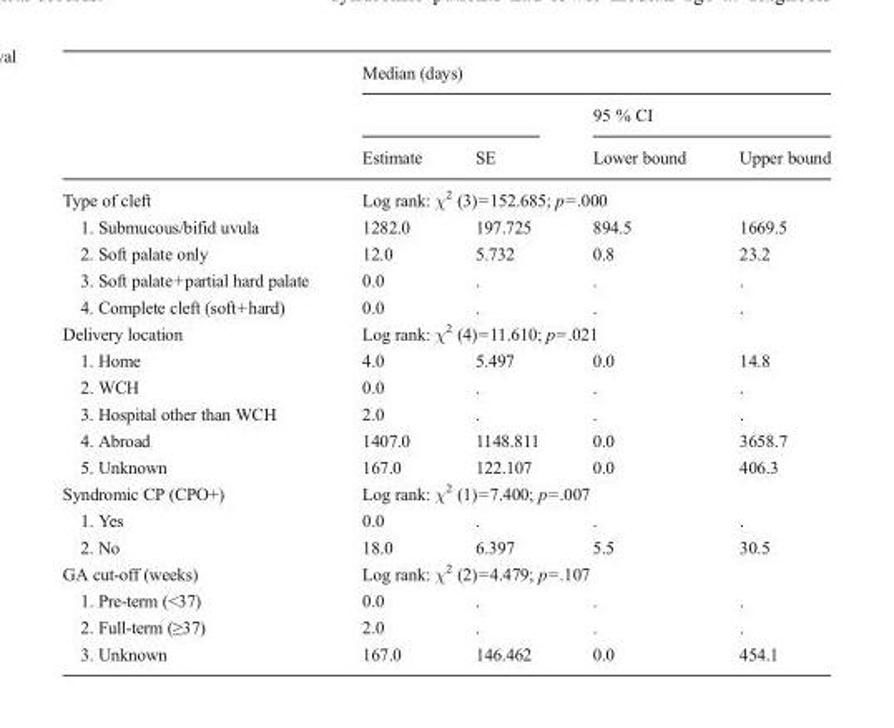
<table><thead><tr><td rowspan="3"></td><td colspan="4">Median (days)</td></tr><tr><td rowspan="2">Estimate</td><td rowspan="2">SE</td><td colspan="2">95 % CI</td></tr><tr><td>Lower bound</td><td>Upper bound</td></tr></thead><tbody><tr><td>Type of cleft</td><td colspan="4">Log rank: χ<sup>2</sup> (3)=152.685; p=.000</td></tr><tr><td>1. Submucous/bifid uvula</td><td>1282.0</td><td>197.725</td><td>894.5</td><td>1669.5</td></tr><tr><td>2. Soft palate only</td><td>12.0</td><td>5.732</td><td>0.8</td><td>23.2</td></tr><tr><td>3. Soft palate+partial hard palate</td><td>0.0</td><td>.</td><td>.</td><td>.</td></tr><tr><td>4. Complete cleft (soft+hard)</td><td>0.0</td><td>.</td><td>.</td><td>.</td></tr><tr><td>Delivery location</td><td colspan="4">Log rank: χ<sup>2</sup> (4)=11.610; p=.021</td></tr><tr><td>1. Home</td><td>4.0</td><td>5.497</td><td>0.0</td><td>14.8</td></tr><tr><td>2. WCH</td><td>0.0</td><td>.</td><td>.</td><td>.</td></tr><tr><td>3. Hospital other than WCH</td><td>2.0</td><td>.</td><td>.</td><td>.</td></tr><tr><td>4. Abroad</td><td>1407.0</td><td>1148.811</td><td>0.0</td><td>3658.7</td></tr><tr><td>5. Unknown</td><td>167.0</td><td>122.107</td><td>0.0</td><td>406.3</td></tr><tr><td>Syndromic CP (CPO+)</td><td colspan="4">Log rank: χ<sup>2</sup> (1)=7.400; p=.007</td></tr><tr><td>1. Yes</td><td>0.0</td><td>.</td><td>.</td><td>.</td></tr><tr><td>2. No</td><td>18.0</td><td>6.397</td><td>5.5</td><td>30.5</td></tr><tr><td>GA cut-off (weeks)</td><td colspan="4">Log rank: χ<sup>2</sup> (2)=4.479; p=.107</td></tr><tr><td>1. Pre-term (&lt;37)</td><td>0.0</td><td>.</td><td>.</td><td>.</td></tr><tr><td>2. Full-term (≥37)</td><td>2.0</td><td>.</td><td>.</td><td>.</td></tr><tr><td>3. Unknown</td><td>167.0</td><td>146.462</td><td>0.0</td><td>454.1</td></tr></tbody></table>